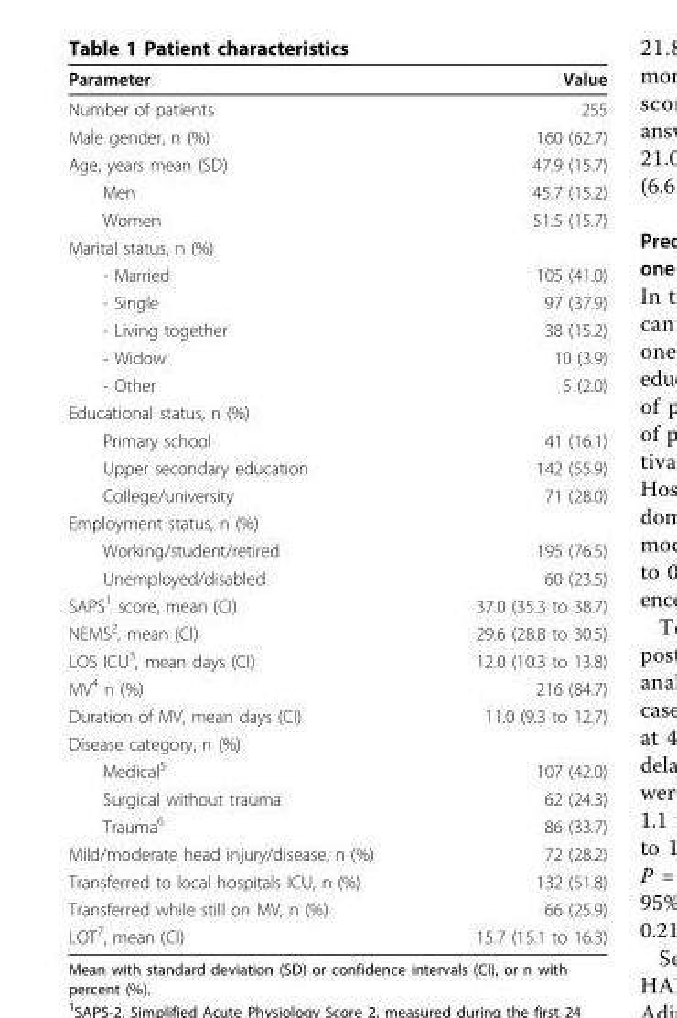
<table><thead><tr><td>Parameter</td><td>Value</td></tr></thead><tbody><tr><td>Number of patients</td><td>255</td></tr><tr><td>Male gender, n (%)</td><td>160 (62.7)</td></tr><tr><td>Age, years mean (SD)</td><td>47.9 (15.7)</td></tr><tr><td>Men</td><td>45.7 (15.2)</td></tr><tr><td>Women</td><td>51.5 (15.7)</td></tr><tr><td colspan="2">Marital status, n (%)</td></tr><tr><td>- Married</td><td>105 (41.0)</td></tr><tr><td>- Single</td><td>97 (37.9)</td></tr><tr><td>- Living together</td><td>38 (15.2)</td></tr><tr><td>- Widow</td><td>10 (3.9)</td></tr><tr><td>- Other</td><td>5 (2.0)</td></tr><tr><td colspan="2">Educational status, n (%)</td></tr><tr><td>Primary school</td><td>41 (16.1)</td></tr><tr><td>Upper secondary education</td><td>142 (55.9)</td></tr><tr><td>College/university</td><td>71 (28.0)</td></tr><tr><td colspan="2">Employment status, n (%)</td></tr><tr><td>Working/student/retired</td><td>195 (76.5)</td></tr><tr><td>Unemployed/disabled</td><td>60 (23.5)</td></tr><tr><td>SAPS<sup>1</sup> score, mean (CI)</td><td>37.0 (35.3 to 38.7)</td></tr><tr><td>NEMS<sup>2</sup>, mean (CI)</td><td>29.6 (28.8 to 30.5)</td></tr><tr><td>LOS ICU<sup>3</sup>, mean days (CI)</td><td>12.0 (10.3 to 13.8)</td></tr><tr><td>MV<sup>4</sup> n (%)</td><td>216 (84.7)</td></tr><tr><td>Duration of MV, mean days (CI)</td><td>11.0 (9.3 to 12.7)</td></tr><tr><td colspan="2">Disease category, n (%)</td></tr><tr><td>Medical<sup>5</sup></td><td>107 (42.0)</td></tr><tr><td>Surgical without trauma</td><td>62 (24.3)</td></tr><tr><td>Trauma<sup>6</sup></td><td>86 (33.7)</td></tr><tr><td>Mild/moderate head injury/disease, n (%)</td><td>72 (28.2)</td></tr><tr><td>Transferred to local hospitals ICU, n (%)</td><td>132 (51.8)</td></tr><tr><td>Transferred while still on MV, n (%)</td><td>66 (25.9)</td></tr><tr><td>LOT<sup>7</sup>, mean (CI)</td><td>15.7 (15.1 to 16.3)</td></tr></tbody></table>